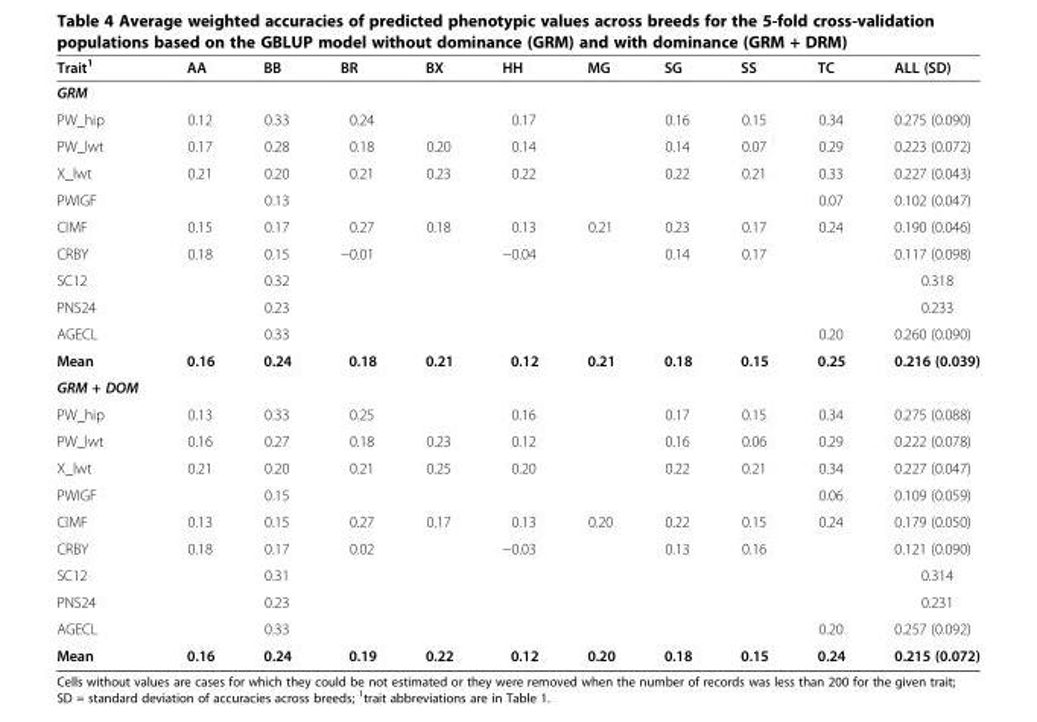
<table><thead><tr><td>Trait<sup>1</sup></td><td>AA</td><td>BB</td><td>BR</td><td>BX</td><td>HH</td><td>MG</td><td>SG</td><td>SS</td><td>TC</td><td>ALL (SD)</td></tr></thead><tbody><tr><td colspan="11">GRM</td></tr><tr><td>PW_hip</td><td>0.12</td><td>0.33</td><td>0.24</td><td></td><td>0.17</td><td></td><td>0.16</td><td>0.15</td><td>0.34</td><td>0.275 (0.090)</td></tr><tr><td>PW_lwt</td><td>0.17</td><td>0.28</td><td>0.18</td><td>0.20</td><td>0.14</td><td></td><td>0.14</td><td>0.07</td><td>0.29</td><td>0.223 (0.072)</td></tr><tr><td>X_lwt</td><td>0.21</td><td>0.20</td><td>0.21</td><td>0.23</td><td>0.22</td><td></td><td>0.22</td><td>0.21</td><td>0.33</td><td>0.227 (0.043)</td></tr><tr><td>PWIGF</td><td></td><td>0.13</td><td></td><td></td><td></td><td></td><td></td><td></td><td>0.07</td><td>0.102 (0.047)</td></tr><tr><td>CIMF</td><td>0.15</td><td>0.17</td><td>0.27</td><td>0.18</td><td>0.13</td><td>0.21</td><td>0.23</td><td>0.17</td><td>0.24</td><td>0.190 (0.046)</td></tr><tr><td>CRBY</td><td>0.18</td><td>0.15</td><td>−0.01</td><td></td><td>−0.04</td><td></td><td>0.14</td><td>0.17</td><td></td><td>0.117 (0.098)</td></tr><tr><td>SC12</td><td></td><td>0.32</td><td></td><td></td><td></td><td></td><td></td><td></td><td></td><td>0.318</td></tr><tr><td>PNS24</td><td></td><td>0.23</td><td></td><td></td><td></td><td></td><td></td><td></td><td></td><td>0.233</td></tr><tr><td>AGECL</td><td></td><td>0.33</td><td></td><td></td><td></td><td></td><td></td><td></td><td>0.20</td><td>0.260 (0.090)</td></tr><tr><td>Mean</td><td>0.16</td><td>0.24</td><td>0.18</td><td>0.21</td><td>0.12</td><td>0.21</td><td>0.18</td><td>0.15</td><td>0.25</td><td>0.216 (0.039)</td></tr><tr><td colspan="11">GRM + DOM</td></tr><tr><td>PW_hip</td><td>0.13</td><td>0.33</td><td>0.25</td><td></td><td>0.16</td><td></td><td>0.17</td><td>0.15</td><td>0.34</td><td>0.275 (0.088)</td></tr><tr><td>PW_lwt</td><td>0.16</td><td>0.27</td><td>0.18</td><td>0.23</td><td>0.12</td><td></td><td>0.16</td><td>0.06</td><td>0.29</td><td>0.222 (0.078)</td></tr><tr><td>X_lwt</td><td>0.21</td><td>0.20</td><td>0.21</td><td>0.25</td><td>0.20</td><td></td><td>0.22</td><td>0.21</td><td>0.34</td><td>0.227 (0.047)</td></tr><tr><td>PWIGF</td><td></td><td>0.15</td><td></td><td></td><td></td><td></td><td></td><td></td><td>0.06</td><td>0.109 (0.059)</td></tr><tr><td>CIMF</td><td>0.13</td><td>0.15</td><td>0.27</td><td>0.17</td><td>0.13</td><td>0.20</td><td>0.22</td><td>0.15</td><td>0.24</td><td>0.179 (0.050)</td></tr><tr><td>CRBY</td><td>0.18</td><td>0.17</td><td>0.02</td><td></td><td>−0.03</td><td></td><td>0.13</td><td>0.16</td><td></td><td>0.121 (0.090)</td></tr><tr><td>SC12</td><td></td><td>0.31</td><td></td><td></td><td></td><td></td><td></td><td></td><td></td><td>0.314</td></tr><tr><td>PNS24</td><td></td><td>0.23</td><td></td><td></td><td></td><td></td><td></td><td></td><td></td><td>0.231</td></tr><tr><td>AGECL</td><td></td><td>0.33</td><td></td><td></td><td></td><td></td><td></td><td></td><td>0.20</td><td>0.257 (0.092)</td></tr><tr><td>Mean</td><td>0.16</td><td>0.24</td><td>0.19</td><td>0.22</td><td>0.12</td><td>0.20</td><td>0.18</td><td>0.15</td><td>0.24</td><td>0.215 (0.072)</td></tr></tbody></table>